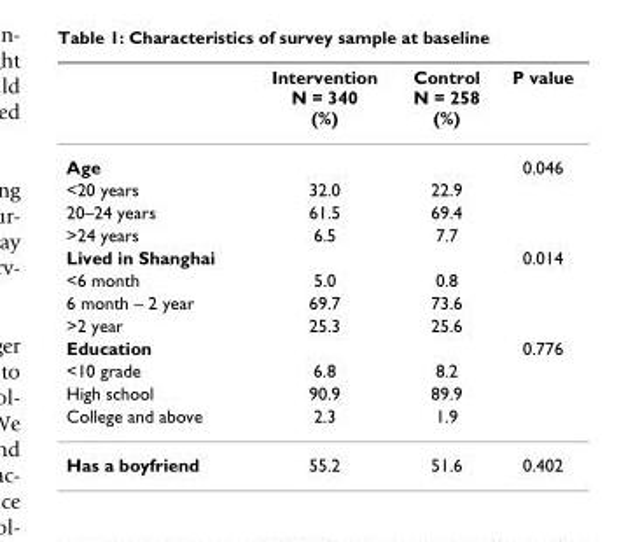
<table><thead><tr><td></td><td>Intervention N = 340 (%)</td><td>Control N = 258 (%)</td><td>P value</td></tr></thead><tbody><tr><td>Age</td><td></td><td></td><td>0.046</td></tr><tr><td>&lt;20 years</td><td>32.0</td><td>22.9</td><td></td></tr><tr><td>20–24 years</td><td>61.5</td><td>69.4</td><td></td></tr><tr><td>&gt;24 years</td><td>6.5</td><td>7.7</td><td></td></tr><tr><td>Lived in Shanghai</td><td></td><td></td><td>0.014</td></tr><tr><td>&lt;6 month</td><td>5.0</td><td>0.8</td><td></td></tr><tr><td>6 month – 2 year</td><td>69.7</td><td>73.6</td><td></td></tr><tr><td>&gt;2 year</td><td>25.3</td><td>25.6</td><td></td></tr><tr><td>Education</td><td></td><td></td><td>0.776</td></tr><tr><td>&lt;10 grade</td><td>6.8</td><td>8.2</td><td></td></tr><tr><td>High school</td><td>90.9</td><td>89.9</td><td></td></tr><tr><td>College and above</td><td>2.3</td><td>1.9</td><td></td></tr><tr><td>Has a boyfriend</td><td>55.2</td><td>51.6</td><td>0.402</td></tr></tbody></table>